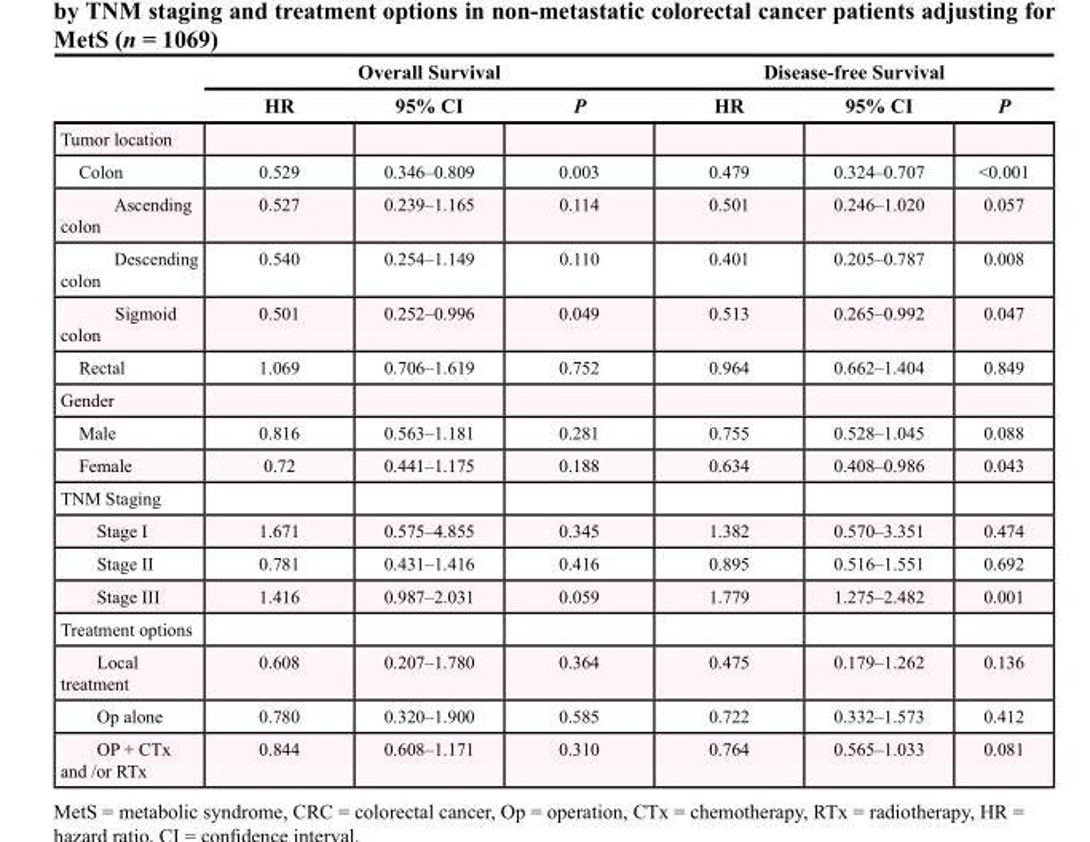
<table><thead><tr><td rowspan="2"></td><td colspan="3">Overall Survival</td><td colspan="3">Disease-free Survival</td></tr><tr><td>HR</td><td>95% CI</td><td>P</td><td>HR</td><td>95% CI</td><td>P</td></tr></thead><tbody><tr><td colspan="7">Tumor location</td></tr><tr><td>Colon</td><td>0.529</td><td>0.346–0.809</td><td>0.003</td><td>0.479</td><td>0.324–0.707</td><td>&lt;0.001</td></tr><tr><td>Ascending colon</td><td>0.527</td><td>0.239–1.165</td><td>0.114</td><td>0.501</td><td>0.246–1.020</td><td>0.057</td></tr><tr><td>Descending colon</td><td>0.540</td><td>0.254–1.149</td><td>0.110</td><td>0.401</td><td>0.205–0.787</td><td>0.008</td></tr><tr><td>Sigmoid colon</td><td>0.501</td><td>0.252–0.996</td><td>0.049</td><td>0.513</td><td>0.265–0.992</td><td>0.047</td></tr><tr><td>Rectal</td><td>1.069</td><td>0.706–1.619</td><td>0.752</td><td>0.964</td><td>0.662–1.404</td><td>0.849</td></tr><tr><td colspan="7">Gender</td></tr><tr><td>Male</td><td>0.816</td><td>0.563–1.181</td><td>0.281</td><td>0.755</td><td>0.528–1.045</td><td>0.088</td></tr><tr><td>Female</td><td>0.72</td><td>0.441–1.175</td><td>0.188</td><td>0.634</td><td>0.408–0.986</td><td>0.043</td></tr><tr><td colspan="7">TNM Staging</td></tr><tr><td>Stage I</td><td>1.671</td><td>0.575–4.855</td><td>0.345</td><td>1.382</td><td>0.570–3.351</td><td>0.474</td></tr><tr><td>Stage II</td><td>0.781</td><td>0.431–1.416</td><td>0.416</td><td>0.895</td><td>0.516–1.551</td><td>0.692</td></tr><tr><td>Stage III</td><td>1.416</td><td>0.987–2.031</td><td>0.059</td><td>1.779</td><td>1.275–2.482</td><td>0.001</td></tr><tr><td colspan="7">Treatment options</td></tr><tr><td>Local treatment</td><td>0.608</td><td>0.207–1.780</td><td>0.364</td><td>0.475</td><td>0.179–1.262</td><td>0.136</td></tr><tr><td>Op alone</td><td>0.780</td><td>0.320–1.900</td><td>0.585</td><td>0.722</td><td>0.332–1.573</td><td>0.412</td></tr><tr><td>OP + CTx and /or RTx</td><td>0.844</td><td>0.608–1.171</td><td>0.310</td><td>0.764</td><td>0.565–1.033</td><td>0.081</td></tr></tbody></table>